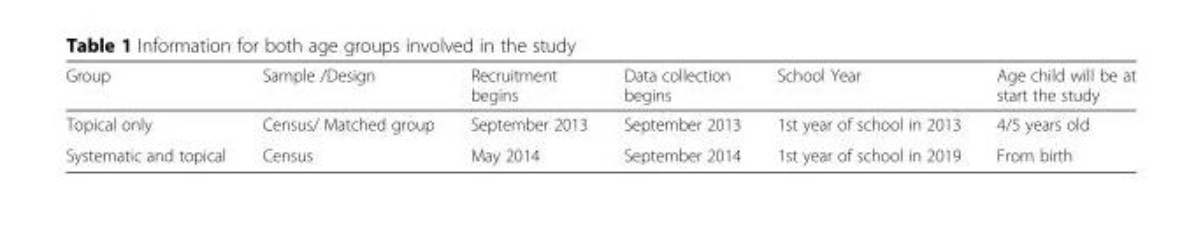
<table><thead><tr><td>Group</td><td>Sample /Design</td><td>Recruitment begins</td><td>Data collection begins</td><td>School Year</td><td>Age child will be at start the study</td></tr></thead><tbody><tr><td>Topical only</td><td>Census/ Matched group</td><td>September 2013</td><td>September 2013</td><td>1st year of school in 2013</td><td>4/5 years old</td></tr><tr><td>Systematic and topical</td><td>Census</td><td>May 2014</td><td>September 2014</td><td>1st year of school in 2019</td><td>From birth</td></tr></tbody></table>